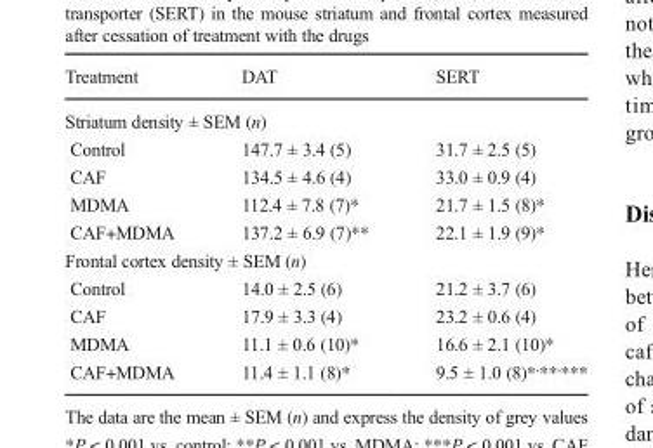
<table><thead><tr><td>Treatment</td><td>DAT</td><td>SERT</td></tr></thead><tbody><tr><td colspan="3">Striatum density ± SEM (n)</td></tr><tr><td>Control</td><td>147.7 ± 3.4 (5)</td><td>31.7 ± 2.5 (5)</td></tr><tr><td>CAF</td><td>134.5 ± 4.6 (4)</td><td>33.0 ± 0.9 (4)</td></tr><tr><td>MDMA</td><td>112.4 ± 7.8 (7)*</td><td>21.7 ± 1.5 (8)*</td></tr><tr><td>CAF+MDMA</td><td>137.2 ± 6.9 (7)**</td><td>22.1 ± 1.9 (9)*</td></tr><tr><td colspan="3">Frontal cortex density ± SEM (n)</td></tr><tr><td>Control</td><td>14.0 ± 2.5 (6)</td><td>21.2 ± 3.7 (6)</td></tr><tr><td>CAF</td><td>17.9 ± 3.3 (4)</td><td>23.2 ± 0.6 (4)</td></tr><tr><td>MDMA</td><td>11.1 ± 0.6 (10)*</td><td>16.6 ± 2.1 (10)*</td></tr><tr><td>CAF+MDMA</td><td>11.4 ± 1.1 (8)*</td><td>9.5 ± 1.0 (8)*<sup>,</sup>**<sup>,</sup>***</td></tr></tbody></table>